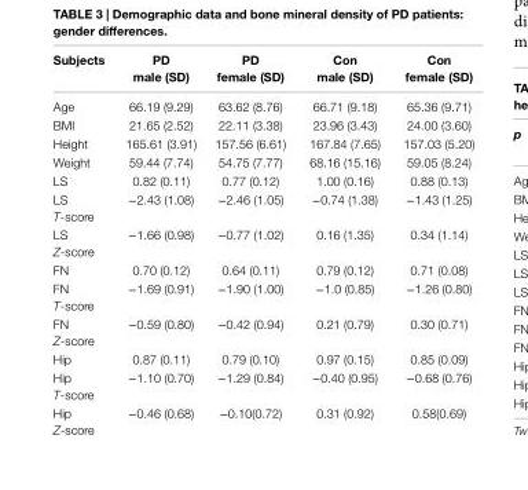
<table><thead><tr><td>subjects</td><td>PD male (sD)</td><td>PD female (sD)</td><td>con male (sD)</td><td>con female (sD)</td></tr></thead><tbody><tr><td>Age</td><td>66.19 (9.29)</td><td>63.62 (8.76)</td><td>66.71 (9.18)</td><td>65.36 (9.71)</td></tr><tr><td>BMI</td><td>21.65 (2.52)</td><td>22.11 (3.38)</td><td>23.96 (3.43)</td><td>24.00 (3.60)</td></tr><tr><td>Height</td><td>165.61 (3.91)</td><td>157.56 (6.61)</td><td>167.84 (7.65)</td><td>157.03 (5.20)</td></tr><tr><td>Weight</td><td>59.44 (7.74)</td><td>54.75 (7.77)</td><td>68.16 (15.16)</td><td>59.05 (8.24)</td></tr><tr><td>LS</td><td>0.82 (0.11)</td><td>0.77 (0.12)</td><td>1.00 (0.16)</td><td>0.88 (0.13)</td></tr><tr><td>LS T-score</td><td>−2.43 (1.08)</td><td>−2.46 (1.05)</td><td>−0.74 (1.38)</td><td>−1.43 (1.25)</td></tr><tr><td>LS Z-score</td><td>−1.66 (0.98)</td><td>−0.77 (1.02)</td><td>0.16 (1.35)</td><td>0.34 (1.14)</td></tr><tr><td>FN</td><td>0.70 (0.12)</td><td>0.64 (0.11)</td><td>0.79 (0.12)</td><td>0.71 (0.08)</td></tr><tr><td>FN T-score</td><td>−1.69 (0.91)</td><td>−1.90 (1.00)</td><td>−1.0 (0.85)</td><td>−1.26 (0.80)</td></tr><tr><td>FN Z-score</td><td>−0.59 (0.80)</td><td>−0.42 (0.94)</td><td>0.21 (0.79)</td><td>0.30 (0.71)</td></tr><tr><td>Hip</td><td>0.87 (0.11)</td><td>0.79 (0.10)</td><td>0.97 (0.15)</td><td>0.85 (0.09)</td></tr><tr><td>Hip T-score</td><td>−1.10 (0.70)</td><td>−1.29 (0.84)</td><td>−0.40 (0.95)</td><td>−0.68 (0.76)</td></tr><tr><td>Hip Z-score</td><td>−0.46 (0.68)</td><td>−0.10(0.72)</td><td>0.31 (0.92)</td><td>0.58(0.69)</td></tr></tbody></table>